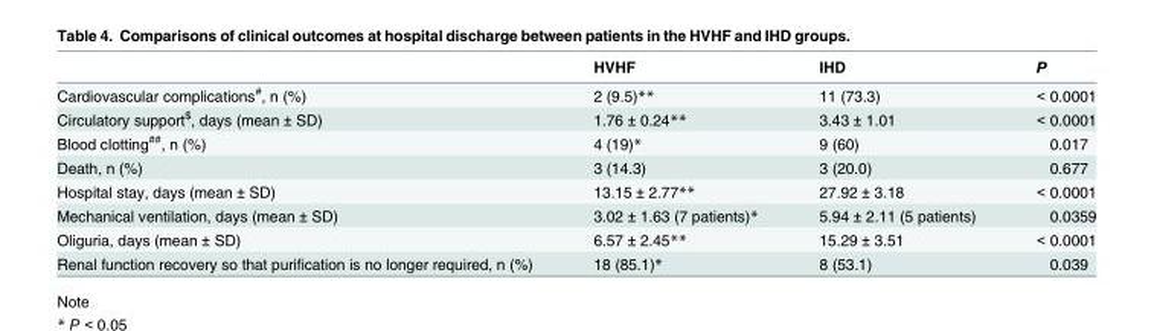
<table><thead><tr><td></td><td>HVHF</td><td>IHD</td><td>P</td></tr></thead><tbody><tr><td>Cardiovascular complications<sup>#</sup>, n (%)</td><td>2 (9.5)**</td><td>11 (73.3)</td><td>&lt; 0.0001</td></tr><tr><td>Circulatory support<sup>$</sup>, days (mean ± SD)</td><td>1.76 ± 0.24**</td><td>3.43 ± 1.01</td><td>&lt; 0.0001</td></tr><tr><td>Blood clotting<sup>##</sup>, n (%)</td><td>4 (19)*</td><td>9 (60)</td><td>0.017</td></tr><tr><td>Death, n (%)</td><td>3 (14.3)</td><td>3 (20.0)</td><td>0.677</td></tr><tr><td>Hospital stay, days (mean ± SD)</td><td>13.15 ± 2.77**</td><td>27.92 ± 3.18</td><td>&lt; 0.0001</td></tr><tr><td>Mechanical ventilation, days (mean ± SD)</td><td>3.02 ± 1.63 (7 patients)*</td><td>5.94 ± 2.11 (5 patients)</td><td>0.0359</td></tr><tr><td>Oliguria, days (mean ± SD)</td><td>6.57 ± 2.45**</td><td>15.29 ± 3.51</td><td>&lt; 0.0001</td></tr><tr><td>Renal function recovery so that purification is no longer required, n (%)</td><td>18 (85.1)*</td><td>8 (53.1)</td><td>0.039</td></tr></tbody></table>